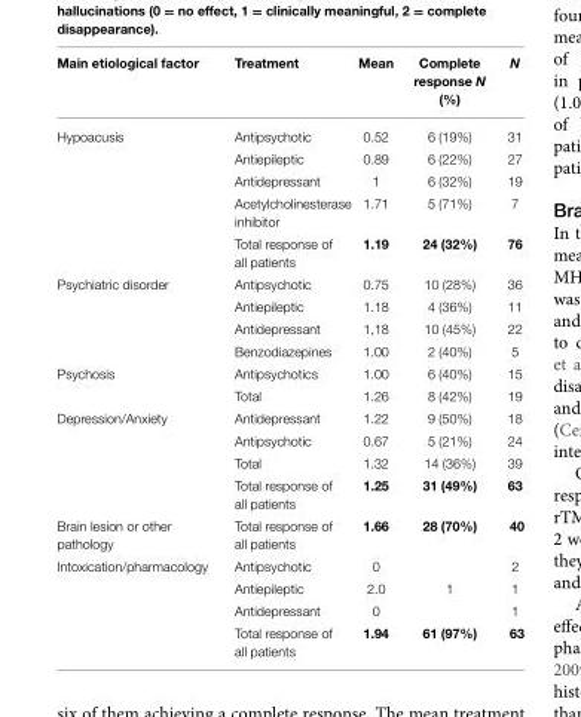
<table><thead><tr><td>Main etiological factor</td><td>Treatment</td><td>Mean</td><td>Complete response N (%)</td><td>N</td></tr></thead><tbody><tr><td rowspan="5">Hypoacusis</td><td>Antipsychotic</td><td>0.52</td><td>6 (19%)</td><td>31</td></tr><tr><td>Antiepileptic</td><td>0.89</td><td>6 (22%)</td><td>27</td></tr><tr><td>Antidepressant</td><td>1</td><td>6 (32%)</td><td>19</td></tr><tr><td>Acetylcholinesterase inhibitor</td><td>1.71</td><td>5 (71%)</td><td>7</td></tr><tr><td>Total response of all patients</td><td>1.19</td><td>24 (32%)</td><td>76</td></tr><tr><td rowspan="4">Psychiatric disorder</td><td>Antipsychotic</td><td>0.75</td><td>10 (28%)</td><td>36</td></tr><tr><td>Antiepileptic</td><td>1.18</td><td>4 (36%)</td><td>11</td></tr><tr><td>Antidepressant</td><td>1,18</td><td>10 (45%)</td><td>22</td></tr><tr><td>Benzodiazepines</td><td>1.00</td><td>2 (40%)</td><td>5</td></tr><tr><td rowspan="2">Psychosis</td><td>Antipsychotics</td><td>1.00</td><td>6 (40%)</td><td>15</td></tr><tr><td>Total</td><td>1.26</td><td>8 (42%)</td><td>19</td></tr><tr><td rowspan="4">Depression/Anxiety</td><td>Antidepressant</td><td>1.22</td><td>9 (50%)</td><td>18</td></tr><tr><td>Antipsychotic</td><td>0.67</td><td>5 (21%)</td><td>24</td></tr><tr><td>Total</td><td>1.32</td><td>14 (36%)</td><td>39</td></tr><tr><td>Total response of all patients</td><td>1.25</td><td>31 (49%)</td><td>63</td></tr><tr><td>Brain lesion or other pathology</td><td>Total response of all patients</td><td>1.66</td><td>28 (70%)</td><td>40</td></tr><tr><td rowspan="4">Intoxication/pharmacology</td><td>Antipsychotic</td><td>0</td><td></td><td>2</td></tr><tr><td>Antiepileptic</td><td>2.0</td><td>1</td><td>1</td></tr><tr><td>Antidepressant</td><td>0</td><td></td><td>1</td></tr><tr><td>Total response of all patients</td><td>1.94</td><td>61 (97%)</td><td>63</td></tr></tbody></table>